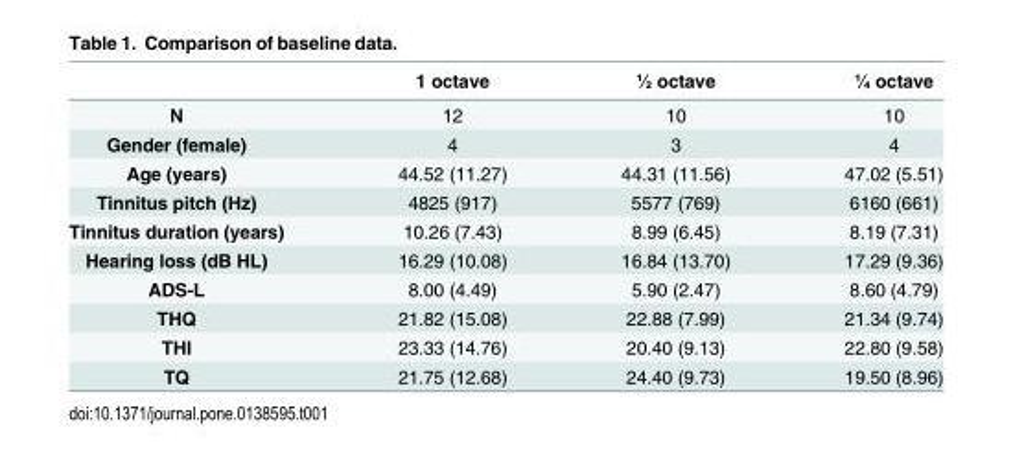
<table><thead><tr><td></td><td>1 octave</td><td>½ octave</td><td>¼ octave</td></tr></thead><tbody><tr><td>N</td><td>12</td><td>10</td><td>10</td></tr><tr><td>Gender (female)</td><td>4</td><td>3</td><td>4</td></tr><tr><td>Age (years)</td><td>44.52 (11.27)</td><td>44.31 (11.56)</td><td>47.02 (5.51)</td></tr><tr><td>Tinnitus pitch (Hz)</td><td>4825 (917)</td><td>5577 (769)</td><td>6160 (661)</td></tr><tr><td>Tinnitus duration (years)</td><td>10.26 (7.43)</td><td>8.99 (6.45)</td><td>8.19 (7.31)</td></tr><tr><td>Hearing loss (dB HL)</td><td>16.29 (10.08)</td><td>16.84 (13.70)</td><td>17.29 (9.36)</td></tr><tr><td>ADS-L</td><td>8.00 (4.49)</td><td>5.90 (2.47)</td><td>8.60 (4.79)</td></tr><tr><td>THQ</td><td>21.82 (15.08)</td><td>22.88 (7.99)</td><td>21.34 (9.74)</td></tr><tr><td>THI</td><td>23.33 (14.76)</td><td>20.40 (9.13)</td><td>22.80 (9.58)</td></tr><tr><td>TQ</td><td>21.75 (12.68)</td><td>24.40 (9.73)</td><td>19.50 (8.96)</td></tr></tbody></table>